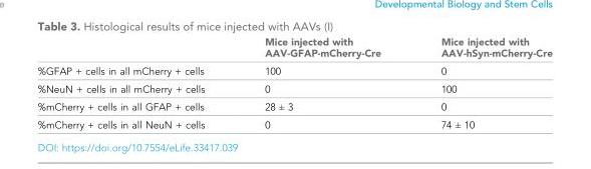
<table><thead><tr><td></td><td>Mice injected with AAV-GFAP-mCherry-Cre</td><td>Mice injected with AAV-hSyn-mCherry-Cre</td></tr></thead><tbody><tr><td>%GFAP + cells in all mCherry + cells</td><td>100</td><td>0</td></tr><tr><td>%NeuN + cells in all mCherry + cells</td><td>0</td><td>100</td></tr><tr><td>%mCherry + cells in all GFAP + cells</td><td>28 ± 3</td><td>0</td></tr><tr><td>%mCherry + cells in all NeuN + cells</td><td>0</td><td>74 ± 10</td></tr></tbody></table>